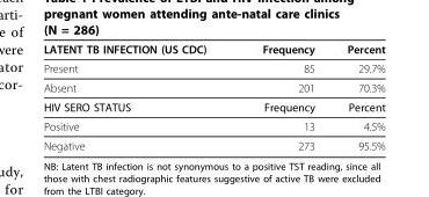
<table><thead><tr><td>LATENT TB INFECTION (US CDC)</td><td>Frequency</td><td>Percent</td></tr></thead><tbody><tr><td>Present</td><td>85</td><td>29.7%</td></tr><tr><td>Absent</td><td>201</td><td>70.3%</td></tr><tr><td>HIV SERO STATUS</td><td>Frequency</td><td>Percent</td></tr><tr><td>Positive</td><td>13</td><td>4.5%</td></tr><tr><td>Negative</td><td>273</td><td>95.5%</td></tr></tbody></table>